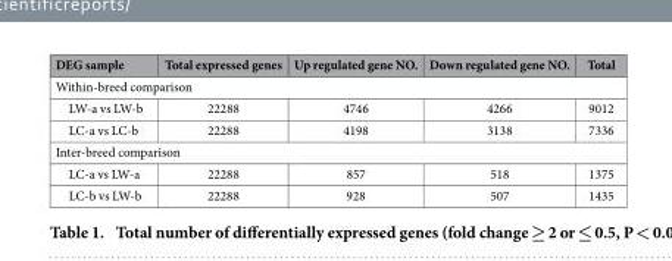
<table><thead><tr><td>DEG sample</td><td>Total expressed genes</td><td>Up regulated gene NO.</td><td>Down regulated gene NO.</td><td>Total</td></tr></thead><tbody><tr><td colspan="5">Within-breed comparison</td></tr><tr><td>LW-a vs LW-b</td><td>22288</td><td>4746</td><td>4266</td><td>9012</td></tr><tr><td>LC-a vs LC-b</td><td>22288</td><td>4198</td><td>3138</td><td>7336</td></tr><tr><td colspan="5">Inter-breed comparison</td></tr><tr><td>LC-a vs LW-a</td><td>22288</td><td>857</td><td>518</td><td>1375</td></tr><tr><td>LC-b vs LW-b</td><td>22288</td><td>928</td><td>507</td><td>1435</td></tr></tbody></table>